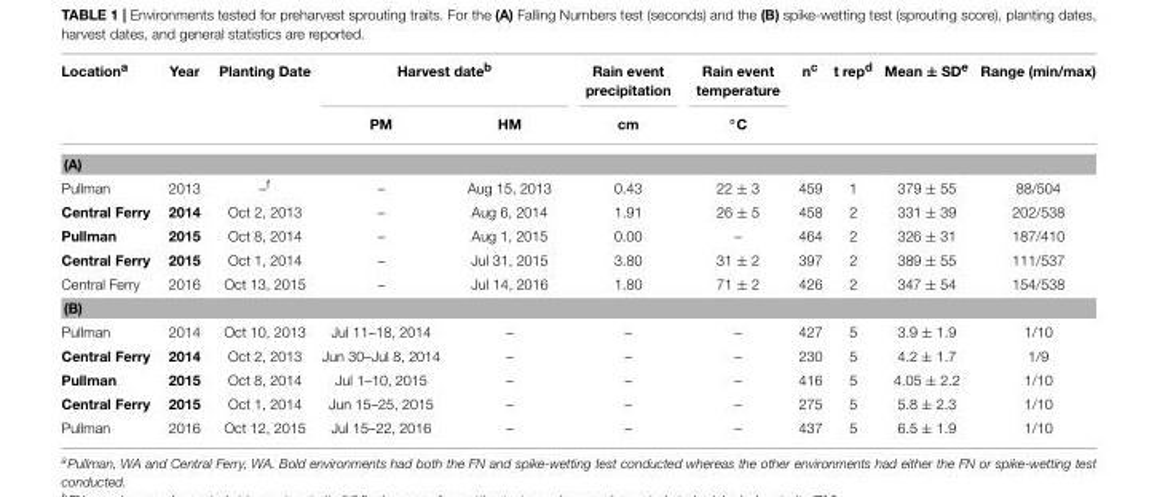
<table><thead><tr><td rowspan="2">Location<sup>a</sup></td><td rowspan="2">Year</td><td rowspan="2">Planting Date</td><td colspan="2">Harvest date<sup>b</sup></td><td rowspan="2">Rain event precipitation cm</td><td rowspan="2">Rain event temperature ◦C</td><td rowspan="2">n<sup>c</sup></td><td rowspan="2">t rep<sup>d</sup></td><td rowspan="2">Mean ± SD<sup>e</sup></td><td rowspan="2">Range (min/max)</td></tr><tr><td>PM</td><td>HM</td></tr></thead><tbody><tr><td colspan="11">(A)</td></tr><tr><td>Pullman</td><td>2013</td><td>–<sup>f</sup></td><td>–</td><td>Aug 15, 2013</td><td>0.43</td><td>22 ± 3</td><td>459</td><td>1</td><td>379 ± 55</td><td>88/504</td></tr><tr><td>Central Ferry</td><td>2014</td><td>Oct 2, 2013</td><td>–</td><td>Aug 6, 2014</td><td>1.91</td><td>26 ± 5</td><td>458</td><td>2</td><td>331 ± 39</td><td>202/538</td></tr><tr><td>Pullman</td><td>2015</td><td>Oct 8, 2014</td><td>–</td><td>Aug 1, 2015</td><td>0.00</td><td>–</td><td>464</td><td>2</td><td>326 ± 31</td><td>187/410</td></tr><tr><td>Central Ferry</td><td>2015</td><td>Oct 1, 2014</td><td>–</td><td>Jul 31, 2015</td><td>3.80</td><td>31 ± 2</td><td>397</td><td>2</td><td>389 ± 55</td><td>111/537</td></tr><tr><td>Central Ferry</td><td>2016</td><td>Oct 13, 2015</td><td>–</td><td>Jul 14, 2016</td><td>1.80</td><td>71 ± 2</td><td>426</td><td>2</td><td>347 ± 54</td><td>154/538</td></tr><tr><td colspan="11">(B)</td></tr><tr><td>Pullman</td><td>2014</td><td>Oct 10, 2013</td><td>Jul 11–18, 2014</td><td>–</td><td>–</td><td>–</td><td>427</td><td>5</td><td>3.9 ± 1.9</td><td>1/10</td></tr><tr><td>Central Ferry</td><td>2014</td><td>Oct 2, 2013</td><td>Jun 30–Jul 8, 2014</td><td>–</td><td>–</td><td>–</td><td>230</td><td>5</td><td>4.2 ± 1.7</td><td>1/9</td></tr><tr><td>Pullman</td><td>2015</td><td>Oct 8, 2014</td><td>Jul 1–10, 2015</td><td>–</td><td>–</td><td>–</td><td>416</td><td>5</td><td>4.05 ± 2.2</td><td>1/10</td></tr><tr><td>Central Ferry</td><td>2015</td><td>Oct 1, 2014</td><td>Jun 15–25, 2015</td><td>–</td><td>–</td><td>–</td><td>275</td><td>5</td><td>5.8 ± 2.3</td><td>1/10</td></tr><tr><td>Pullman</td><td>2016</td><td>Oct 12, 2015</td><td>Jul 15–22, 2016</td><td>–</td><td>–</td><td>–</td><td>437</td><td>5</td><td>6.5 ± 1.9</td><td>1/10</td></tr></tbody></table>